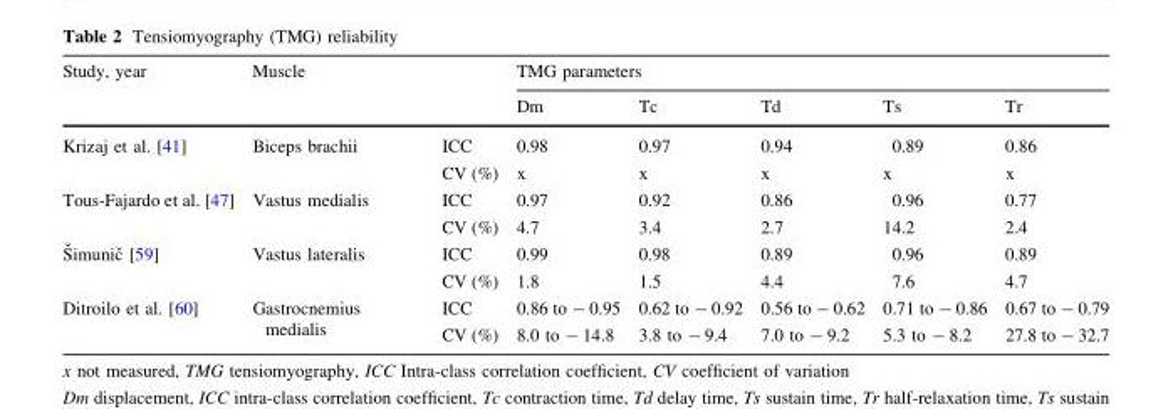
<table><thead><tr><td rowspan="2">Study, year</td><td rowspan="2">Muscle</td><td rowspan="2"></td><td colspan="5">TMG parameters</td></tr><tr><td>Dm</td><td>Tc</td><td>Td</td><td>Ts</td><td>Tr</td></tr></thead><tbody><tr><td rowspan="2">Krizaj et al. [41]</td><td rowspan="2">Biceps brachii</td><td>ICC</td><td>0.98</td><td>0.97</td><td>0.94</td><td>0.89</td><td>0.86</td></tr><tr><td>CV (%)</td><td>x</td><td>x</td><td>x</td><td>x</td><td>x</td></tr><tr><td rowspan="2">Tous-Fajardo et al. [47]</td><td rowspan="2">Vastus medialis</td><td>ICC</td><td>0.97</td><td>0.92</td><td>0.86</td><td>0.96</td><td>0.77</td></tr><tr><td>CV (%)</td><td>4.7</td><td>3.4</td><td>2.7</td><td>14.2</td><td>2.4</td></tr><tr><td rowspan="2">Sˇimunicˇ [59]</td><td rowspan="2">Vastus lateralis</td><td>ICC</td><td>0.99</td><td>0.98</td><td>0.89</td><td>0.96</td><td>0.89</td></tr><tr><td>CV (%)</td><td>1.8</td><td>1.5</td><td>4.4</td><td>7.6</td><td>4.7</td></tr><tr><td rowspan="2">Ditroilo et al. [60]</td><td rowspan="2">Gastrocnemius medialis</td><td>ICC</td><td>0.86 to - 0.95</td><td>0.62 to - 0.92</td><td>0.56 to - 0.62</td><td>0.71 to - 0.86</td><td>0.67 to - 0.79</td></tr><tr><td>CV (%)</td><td>8.0 to - 14.8</td><td>3.8 to - 9.4</td><td>7.0 to - 9.2</td><td>5.3 to - 8.2</td><td>27.8 to - 32.7</td></tr></tbody></table>